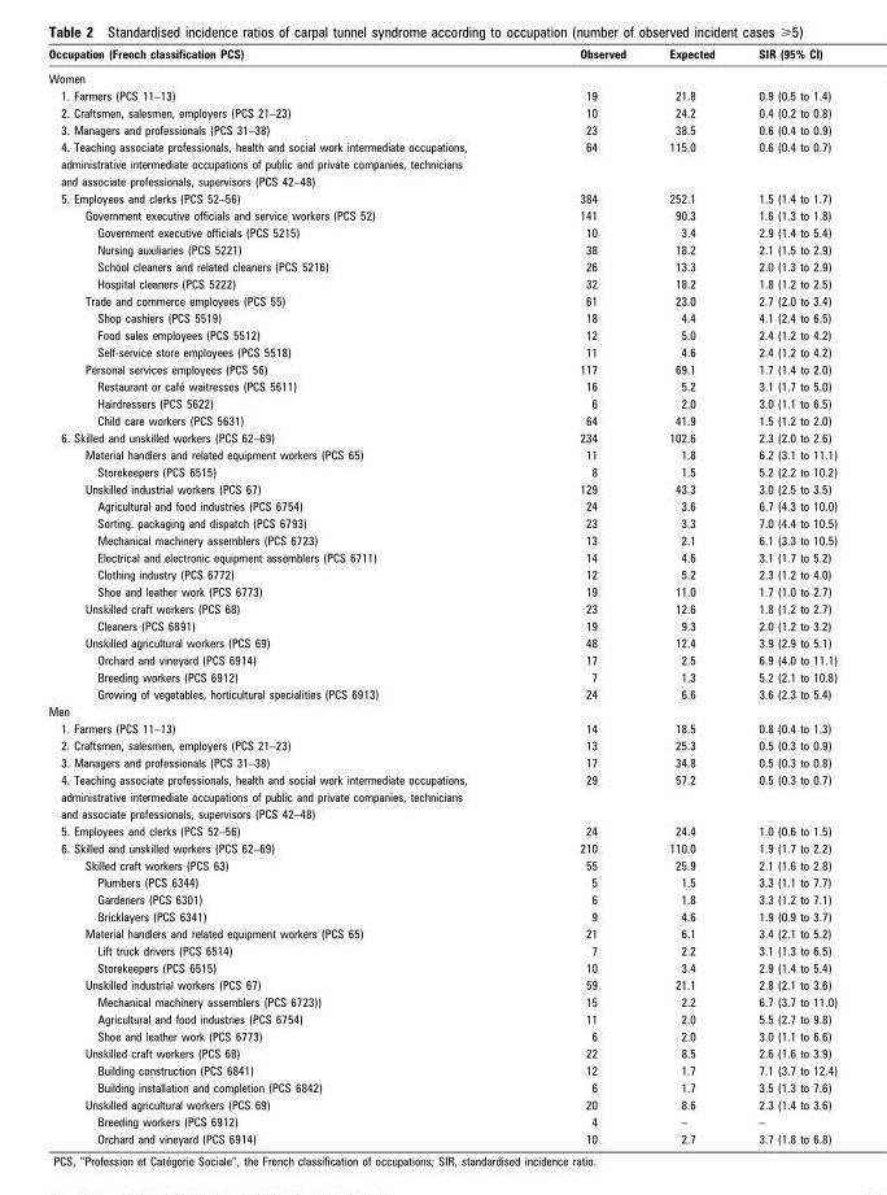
<table><thead><tr><td>Occupation (French classification PCS)</td><td>Observed</td><td>Expected</td><td>SIR (95% CI)</td></tr></thead><tbody><tr><td colspan="4">Women</td></tr><tr><td>1. Farmers (PCS 11–13)</td><td>19</td><td>21.8</td><td>0.9 (0.5 to 1.4)</td></tr><tr><td>2. Craftsmen, salesmen, employers (PCS 21–23)</td><td>10</td><td>24.2</td><td>0.4 (0.2 to 0.8)</td></tr><tr><td>3. Managers and professionals (PCS 31–38)</td><td>23</td><td>38.5</td><td>0.6 (0.4 to 0.9)</td></tr><tr><td>4. Teaching associate professionals, health and social work intermediate occupations,</td><td>64</td><td>115.0</td><td>0.6 (0.4 to 0.7)</td></tr><tr><td colspan="4">administrative intermediate occupations of public and private companies, technicians</td></tr><tr><td colspan="4">and associate professionals, supervisors (PCS 42–48)</td></tr><tr><td>5. Employees and clerks (PCS 52–56)</td><td>384</td><td>252.1</td><td>1.5 (1.4 to 1.7)</td></tr><tr><td>Government executive officials and service workers (PCS 52)</td><td>141</td><td>90.3</td><td>1.6 (1.3 to 1.8)</td></tr><tr><td>Government executive officials (PCS 5215)</td><td>10</td><td>3.4</td><td>2.9 (1.4 to 5.4)</td></tr><tr><td>Nursing auxiliaries (PCS 5221)</td><td>38</td><td>18.2</td><td>2.1 (1.5 to 2.9)</td></tr><tr><td>School cleaners and related cleaners (PCS 5216)</td><td>26</td><td>13.3</td><td>2.0 (1.3 to 2.9)</td></tr><tr><td>Hospital cleaners (PCS 5222)</td><td>32</td><td>18.2</td><td>1.8 (1.2 to 2.5)</td></tr><tr><td>Trade and commerce employees (PCS 55)</td><td>61</td><td>23.0</td><td>2.7 (2.0 to 3.4)</td></tr><tr><td>Shop cashiers (PCS 5519)</td><td>18</td><td>4.4</td><td>4.1 (2.4 to 6.5)</td></tr><tr><td>Food sales employees (PCS 5512)</td><td>12</td><td>5.0</td><td>2.4 (1.2 to 4.2)</td></tr><tr><td>Self-service store employees (PCS 5518)</td><td>11</td><td>4.6</td><td>2.4 (1.2 to 4.2)</td></tr><tr><td>Personal services employees (PCS 56)</td><td>117</td><td>69.1</td><td>1.7 (1.4 to 2.0)</td></tr><tr><td>Restaurant or cafe´ waitresses (PCS 5611)</td><td>16</td><td>5.2</td><td>3.1 (1.7 to 5.0)</td></tr><tr><td>Hairdressers (PCS 5622)</td><td>6</td><td>2.0</td><td>3.0 (1.1 to 6.5)</td></tr><tr><td>Child care workers (PCS 5631)</td><td>64</td><td>41.9</td><td>1.5 (1.2 to 2.0)</td></tr><tr><td>6. Skilled and unskilled workers (PCS 62–69)</td><td>234</td><td>102.6</td><td>2.3 (2.0 to 2.6)</td></tr><tr><td>Material handlers and related equipment workers (PCS 65)</td><td>11</td><td>1.8</td><td>6.2 (3.1 to 11.1)</td></tr><tr><td>Storekeepers (PCS 6515)</td><td>8</td><td>1.5</td><td>5.2 (2.2 to 10.2)</td></tr><tr><td>Unskilled industrial workers (PCS 67)</td><td>129</td><td>43.3</td><td>3.0 (2.5 to 3.5)</td></tr><tr><td>Agricultural and food industries (PCS 6754)</td><td>24</td><td>3.6</td><td>6.7 (4.3 to 10.0)</td></tr><tr><td>Sorting. packaging and dispatch (PCS 6793)</td><td>23</td><td>3.3</td><td>7.0 (4.4 to 10.5)</td></tr><tr><td>Mechanical machinery assemblers (PCS 6723)</td><td>13</td><td>2.1</td><td>6.1 (3.3 to 10.5)</td></tr><tr><td>Electrical and electronic equipment assemblers (PCS 6711)</td><td>14</td><td>4.6</td><td>3.1 (1.7 to 5.2)</td></tr><tr><td>Clothing industry (PCS 6772)</td><td>12</td><td>5.2</td><td>2.3 (1.2 to 4.0)</td></tr><tr><td>Shoe and leather work (PCS 6773)</td><td>19</td><td>11.0</td><td>1.7 (1.0 to 2.7)</td></tr><tr><td>Unskilled craft workers (PCS 68)</td><td>23</td><td>12.6</td><td>1.8 (1.2 to 2.7)</td></tr><tr><td>Cleaners (PCS 6891)</td><td>19</td><td>9.3</td><td>2.0 (1.2 to 3.2)</td></tr><tr><td>Unskilled agricultural workers (PCS 69)</td><td>48</td><td>12.4</td><td>3.9 (2.9 to 5.1)</td></tr><tr><td>Orchard and vineyard (PCS 6914)</td><td>17</td><td>2.5</td><td>6.9 (4.0 to 11.1)</td></tr><tr><td>Breeding workers (PCS 6912)</td><td>7</td><td>1.3</td><td>5.2 (2.1 to 10.8)</td></tr><tr><td>Growing of vegetables, horticultural specialities (PCS 6913)</td><td>24</td><td>6.6</td><td>3.6 (2.3 to 5.4)</td></tr><tr><td colspan="4">Men</td></tr><tr><td>1. Farmers (PCS 11–13)</td><td>14</td><td>18.5</td><td>0.8 (0.4 to 1.3)</td></tr><tr><td>2. Craftsmen, salesmen, employers (PCS 21–23)</td><td>13</td><td>25.3</td><td>0.5 (0.3 to 0.9)</td></tr><tr><td>3. Managers and professionals (PCS 31–38)</td><td>17</td><td>34.8</td><td>0.5 (0.3 to 0.8)</td></tr><tr><td>4. Teaching associate professionals, health and social work intermediate occupations,</td><td>29</td><td>57.2</td><td>0.5 (0.3 to 0.7)</td></tr><tr><td colspan="4">administrative intermediate occupations of public and private companies, technicians</td></tr><tr><td colspan="4">and associate professionals, supervisors (PCS 42–48)</td></tr><tr><td>5. Employees and clerks (PCS 52–56)</td><td>24</td><td>24.4</td><td>1.0 (0.6 to 1.5)</td></tr><tr><td>6. Skilled and unskilled workers (PCS 62–69)</td><td>210</td><td>110.0</td><td>1.9 (1.7 to 2.2)</td></tr><tr><td>Skilled craft workers (PCS 63)</td><td>55</td><td>25.9</td><td>2.1 (1.6 to 2.8)</td></tr><tr><td>Plumbers (PCS 6344)</td><td>5</td><td>1.5</td><td>3.3 (1.1 to 7.7)</td></tr><tr><td>Gardeners (PCS 6301)</td><td>6</td><td>1.8</td><td>3.3 (1.2 to 7.1)</td></tr><tr><td>Bricklayers (PCS 6341)</td><td>9</td><td>4.6</td><td>1.9 (0.9 to 3.7)</td></tr><tr><td>Material handlers and related equipment workers (PCS 65)</td><td>21</td><td>6.1</td><td>3.4 (2.1 to 5.2)</td></tr><tr><td>Lift truck drivers (PCS 6514)</td><td>7</td><td>2.2</td><td>3.1 (1.3 to 6.5)</td></tr><tr><td>Storekeepers (PCS 6515)</td><td>10</td><td>3.4</td><td>2.9 (1.4 to 5.4)</td></tr><tr><td>Unskilled industrial workers (PCS 67)</td><td>59</td><td>21.1</td><td>2.8 (2.1 to 3.6)</td></tr><tr><td>Mechanical machinery assemblers (PCS 6723))</td><td>15</td><td>2.2</td><td>6.7 (3.7 to 11.0)</td></tr><tr><td>Agricultural and food industries (PCS 6754)</td><td>11</td><td>2.0</td><td>5.5 (2.7 to 9.8)</td></tr><tr><td>Shoe and leather work (PCS 6773)</td><td>6</td><td>2.0</td><td>3.0 (1.1 to 6.6)</td></tr><tr><td>Unskilled craft workers (PCS 68)</td><td>22</td><td>8.5</td><td>2.6 (1.6 to 3.9)</td></tr><tr><td>Building construction (PCS 6841)</td><td>12</td><td>1.7</td><td>7.1 (3.7 to 12.4)</td></tr><tr><td>Building installation and completion (PCS 6842)</td><td>6</td><td>1.7</td><td>3.5 (1.3 to 7.6)</td></tr><tr><td>Unskilled agricultural workers (PCS 69)</td><td>20</td><td>8.6</td><td>2.3 (1.4 to 3.6)</td></tr><tr><td>Breeding workers (PCS 6912)</td><td>4</td><td>–</td><td>–</td></tr><tr><td>Orchard and vineyard (PCS 6914)</td><td>10</td><td>2.7</td><td>3.7 (1.8 to 6.8)</td></tr></tbody></table>